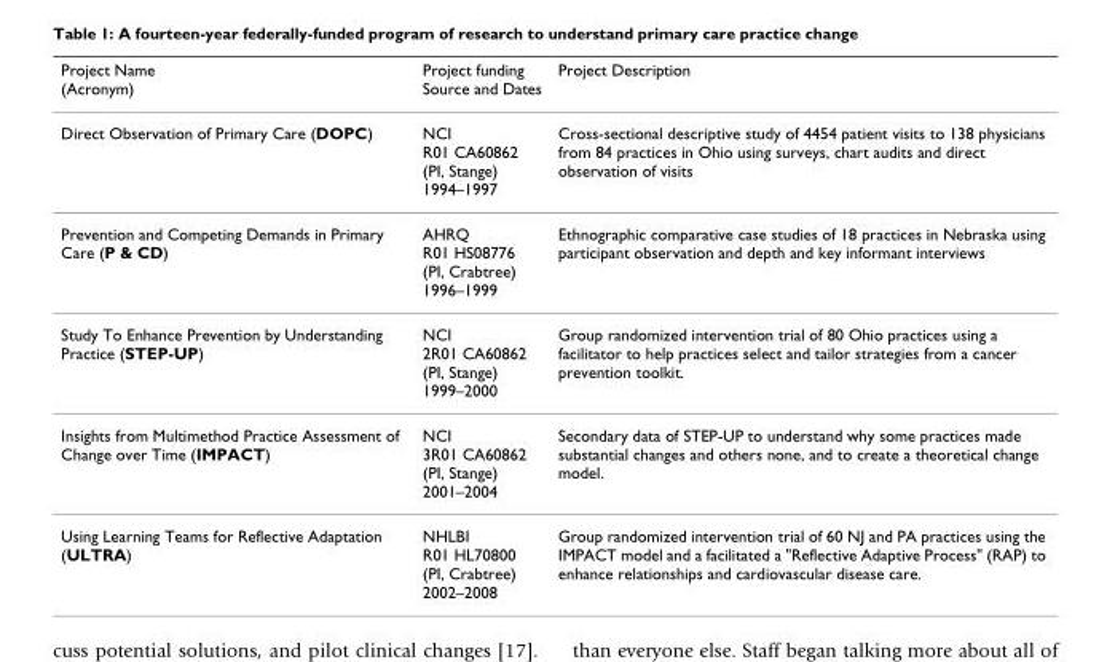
<table><thead><tr><td>Project Name (Acronym)</td><td>Project funding Source and Dates</td><td>Project Description</td></tr></thead><tbody><tr><td>Direct Observation of Primary Care (DOPC)</td><td>NCI R01 CA60862 (PI, Stange) 1994–1997</td><td>Cross-sectional descriptive study of 4454 patient visits to 138 physicians from 84 practices in Ohio using surveys, chart audits and direct observation of visits</td></tr><tr><td>Prevention and Competing Demands in Primary Care (P &amp; CD)</td><td>AHRQ R01 HS08776 (PI, Crabtree) 1996–1999</td><td>Ethnographic comparative case studies of 18 practices in Nebraska using participant observation and depth and key informant interviews</td></tr><tr><td>Study To Enhance Prevention by Understanding Practice (STEP-UP)</td><td>NCI 2R01 CA60862 (PI, Stange) 1999–2000</td><td>Group randomized intervention trial of 80 Ohio practices using a facilitator to help practices select and tailor strategies from a cancer prevention toolkit.</td></tr><tr><td>Insights from Multimethod Practice Assessment of Change over Time (IMPACT)</td><td>NCI 3R01 CA60862 (PI, Stange) 2001–2004</td><td>Secondary data of STEP-UP to understand why some practices made substantial changes and others none, and to create a theoretical change model.</td></tr><tr><td>Using Learning Teams for Reflective Adaptation (ULTRA)</td><td>NHLBI R01 HL70800 (PI, Crabtree) 2002–2008</td><td>Group randomized intervention trial of 60 NJ and PA practices using the IMPACT model and a facilitated a &quot;Reflective Adaptive Process&quot; (RAP) to enhance relationships and cardiovascular disease care.</td></tr></tbody></table>